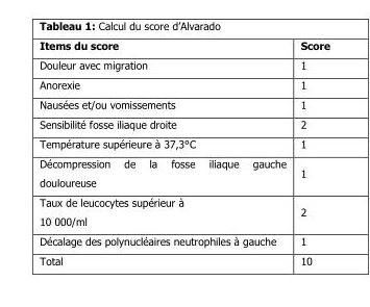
<table><thead><tr><td>Items du score</td><td>Score</td></tr></thead><tbody><tr><td>Douleur avec migration</td><td>1</td></tr><tr><td>Anorexie</td><td>1</td></tr><tr><td>Nausées et/ou vomissements</td><td>1</td></tr><tr><td>Sensibilité fosse iliaque droite</td><td>2</td></tr><tr><td>Température supérieure à 37,3°C</td><td>1</td></tr><tr><td>Décompression de la fosse iliaque gauche douloureuse</td><td>1</td></tr><tr><td>Taux de leucocytes supérieur à 10 000/ml</td><td>2</td></tr><tr><td>Décalage des polynucléaires neutrophiles à gauche</td><td>1</td></tr><tr><td>Total</td><td>10</td></tr></tbody></table>